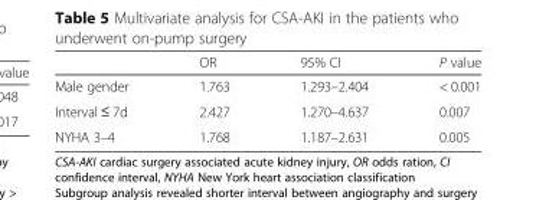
<table><thead><tr><td></td><td>OR</td><td>95% CI</td><td>P value</td></tr></thead><tbody><tr><td>Male gender</td><td>1.763</td><td>1.293–2.404</td><td>&lt; 0.001</td></tr><tr><td>Interval ≤ 7d</td><td>2.427</td><td>1.270–4.637</td><td>0.007</td></tr><tr><td>NYHA 3–4</td><td>1.768</td><td>1.187–2.631</td><td>0.005</td></tr></tbody></table>